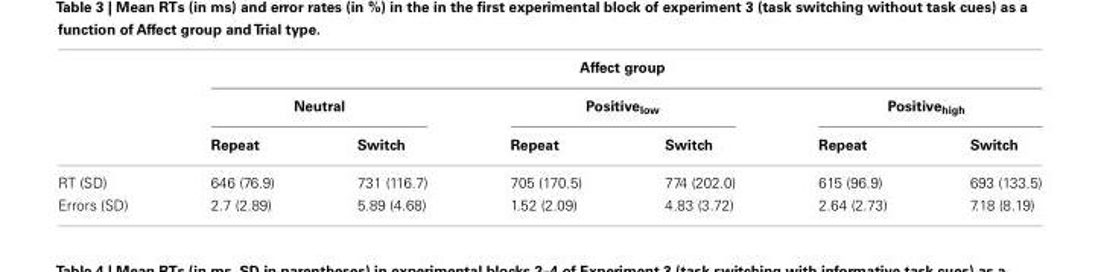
<table><thead><tr><td rowspan="3"></td><td colspan="6">Affect group</td></tr><tr><td colspan="2">Neutral</td><td colspan="2">Positive<sub>low</sub></td><td colspan="2">Positive<sub>high</sub></td></tr><tr><td>Repeat</td><td>Switch</td><td>Repeat</td><td>Switch</td><td>Repeat</td><td>Switch</td></tr></thead><tbody><tr><td>RT (SD)</td><td>646 (76.9)</td><td>731 (116.7)</td><td>705 (170.5)</td><td>774 (202.0)</td><td>615 (96.9)</td><td>693 (133.5)</td></tr><tr><td>Errors (SD)</td><td>2.7 (2.89)</td><td>5.89 (4.68)</td><td>1.52 (2.09)</td><td>4.83 (3.72)</td><td>2.64 (2.73)</td><td>7.18 (8.19)</td></tr></tbody></table>